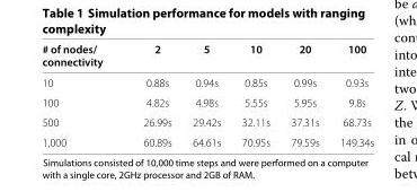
<table><thead><tr><td># of nodes/ connectivity</td><td>2</td><td>5</td><td>10</td><td>20</td><td>100</td></tr></thead><tbody><tr><td>10</td><td>0.88s</td><td>0.94s</td><td>0.85s</td><td>0.99s</td><td>0.93s</td></tr><tr><td>100</td><td>4.82s</td><td>4.98s</td><td>5.55s</td><td>5.95s</td><td>9.8s</td></tr><tr><td>500</td><td>26.99s</td><td>29.42s</td><td>32.11s</td><td>37.31s</td><td>68.73s</td></tr><tr><td>1,000</td><td>60.89s</td><td>64.61s</td><td>70.95s</td><td>79.59s</td><td>149.34s</td></tr></tbody></table>